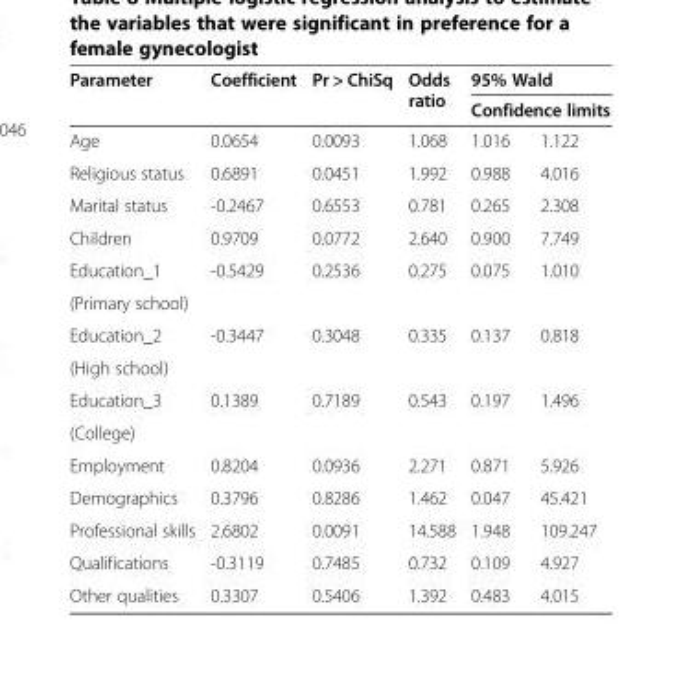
<table><thead><tr><td rowspan="3">Parameter Age</td><td rowspan="3">Coefficient 0.0654</td><td rowspan="3">Pr &gt; ChiSq 0.0093</td><td rowspan="3">Odds ratio 1.068</td><td rowspan="2" colspan="2">95% Wald Confidence limits</td></tr><tr></tr><tr><td>1.016</td><td>1.122</td></tr></thead><tbody><tr><td>Religious status</td><td>0.6891</td><td>0.0451</td><td>1.992</td><td>0.988</td><td>4.016</td></tr><tr><td>Marital status</td><td>-0.2467</td><td>0.6553</td><td>0.781</td><td>0.265</td><td>2.308</td></tr><tr><td>Children</td><td>0.9709</td><td>0.0772</td><td>2.640</td><td>0.900</td><td>7.749</td></tr><tr><td>Education_1</td><td rowspan="2">-0.5429</td><td rowspan="2">0.2536</td><td rowspan="2">0.275</td><td rowspan="2">0.075</td><td rowspan="2">1.010</td></tr><tr><td>(Primary school)</td></tr><tr><td>Education_2</td><td rowspan="2">-0.3447</td><td rowspan="2">0.3048</td><td rowspan="2">0.335</td><td rowspan="2">0.137</td><td rowspan="2">0.818</td></tr><tr><td>(High school)</td></tr><tr><td>Education_3</td><td rowspan="2">0.1389</td><td rowspan="2">0.7189</td><td rowspan="2">0.543</td><td rowspan="2">0.197</td><td rowspan="2">1.496</td></tr><tr><td>(College)</td></tr><tr><td>Employment</td><td>0.8204</td><td>0.0936</td><td>2.271</td><td>0.871</td><td>5.926</td></tr><tr><td>Demographics</td><td>0.3796</td><td>0.8286</td><td>1.462</td><td>0.047</td><td>45.421</td></tr><tr><td>Professional skills</td><td>2.6802</td><td>0.0091</td><td>14.588</td><td>1.948</td><td>109.247</td></tr><tr><td>Qualifications</td><td>-0.3119</td><td>0.7485</td><td>0.732</td><td>0.109</td><td>4.927</td></tr><tr><td>Other qualities</td><td>0.3307</td><td>0.5406</td><td>1.392</td><td>0.483</td><td>4.015</td></tr></tbody></table>